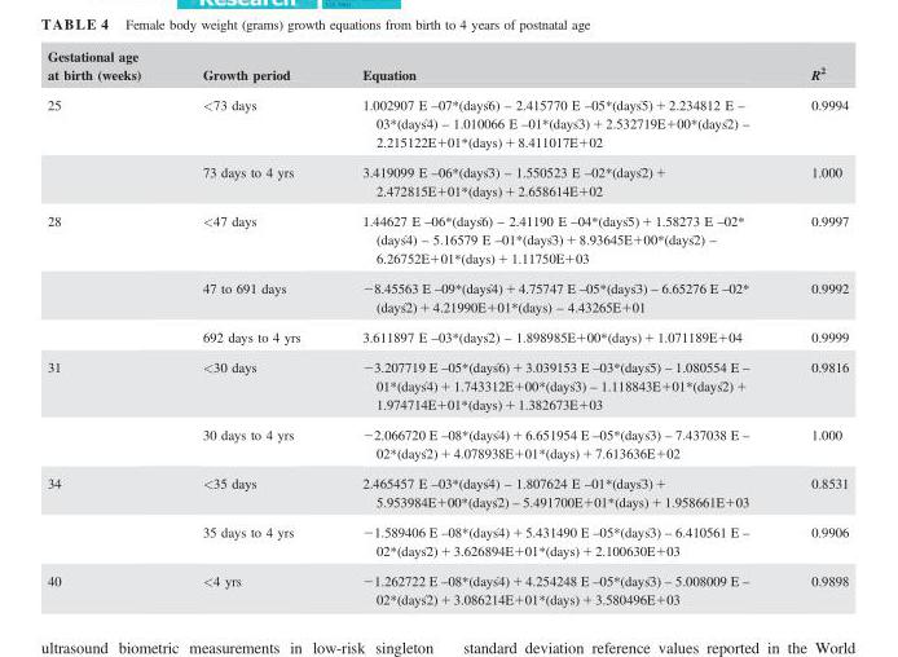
<table><thead><tr><td>Gestational age at birth (weeks)</td><td>Growth period</td><td>Equation</td><td>R<sup>2</sup></td></tr></thead><tbody><tr><td rowspan="2">25</td><td>&lt;73 days</td><td>1.002907 E –07*(days^6) – 2.415770 E –05*(days^5) + 2.234812 E – 03*(days^4) – 1.010066 E –01*(days^3) + 2.532719E+00*(days^2) – 2.215122E+01*(days) + 8.411017E+02</td><td>0.9994</td></tr><tr><td>73 days to 4 yrs</td><td>3.419099 E –06*(days^3) – 1.550523 E –02*(days^2) + 2.472815E+01*(days) + 2.658614E+02</td><td>1.000</td></tr><tr><td rowspan="3">28</td><td>&lt;47 days</td><td>1.44627 E –06*(days^6) – 2.41190 E –04*(days^5) + 1.58273 E –02* (days^4) – 5.16579 E –01*(days^3) + 8.93645E+00*(days^2) – 6.26752E+01*(days) + 1.11750E+03</td><td>0.9997</td></tr><tr><td>47 to 691 days</td><td>−8.45563 E –09*(days^4) + 4.75747 E –05*(days^3) – 6.65276 E –02* (days^2) + 4.21990E+01*(days) – 4.43265E+01</td><td>0.9992</td></tr><tr><td>692 days to 4 yrs</td><td>3.611897 E –03*(days^2) – 1.898985E+00*(days) + 1.071189E+04</td><td>0.9999</td></tr><tr><td rowspan="2">31</td><td>&lt;30 days</td><td>−3.207719 E –05*(days^6) + 3.039153 E –03*(days^5) – 1.080554 E – 01*(days^4) + 1.743312E+00*(days^3) – 1.118843E+01*(days^2) + 1.974714E+01*(days) + 1.382673E+03</td><td>0.9816</td></tr><tr><td>30 days to 4 yrs</td><td>−2.066720 E –08*(days^4) + 6.651954 E –05*(days^3) – 7.437038 E – 02*(days^2) + 4.078938E+01*(days) + 7.613636E+02</td><td>1.000</td></tr><tr><td rowspan="2">34</td><td>&lt;35 days</td><td>2.465457 E –03*(days^4) – 1.807624 E –01*(days^3) + 5.953984E+00*(days^2) – 5.491700E+01*(days) + 1.958661E+03</td><td>0.8531</td></tr><tr><td>35 days to 4 yrs</td><td>−1.589406 E –08*(days^4) + 5.431490 E –05*(days^3) – 6.410561 E – 02*(days^2) + 3.626894E+01*(days) + 2.100630E+03</td><td>0.9906</td></tr><tr><td>40</td><td>&lt;4 yrs</td><td>−1.262722 E –08*(days^4) + 4.254248 E –05*(days^3) – 5.008009 E – 02*(days^2) + 3.086214E+01*(days) + 3.580496E+03</td><td>0.9898</td></tr></tbody></table>